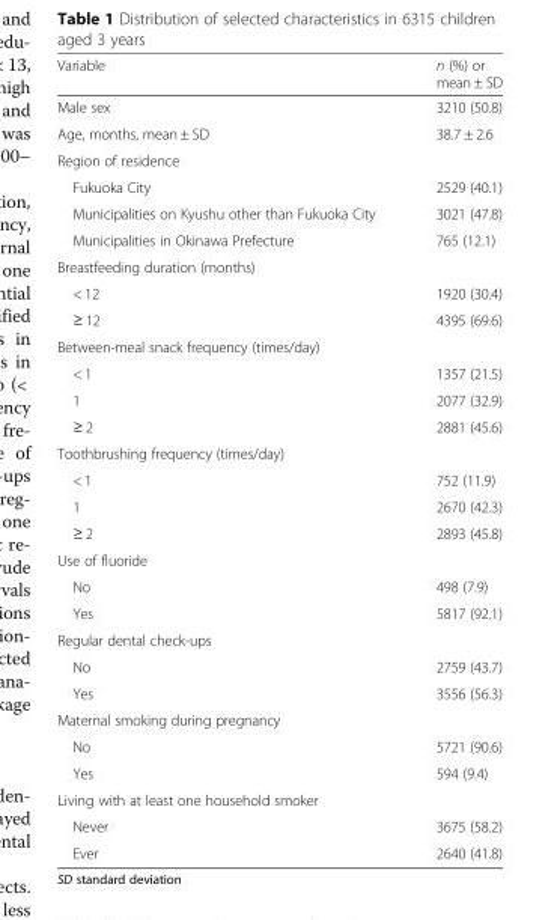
<table><thead><tr><td>Variable</td><td>n (%) or mean ± SD</td></tr></thead><tbody><tr><td>Male sex</td><td>3210 (50.8)</td></tr><tr><td>Age, months, mean ± SD</td><td>38.7 ± 2.6</td></tr><tr><td colspan="2">Region of residence</td></tr><tr><td>Fukuoka City</td><td>2529 (40.1)</td></tr><tr><td>Municipalities on Kyushu other than Fukuoka City</td><td>3021 (47.8)</td></tr><tr><td>Municipalities in Okinawa Prefecture</td><td>765 (12.1)</td></tr><tr><td colspan="2">Breastfeeding duration (months)</td></tr><tr><td>&lt; 12</td><td>1920 (30.4)</td></tr><tr><td>≥ 12</td><td>4395 (69.6)</td></tr><tr><td colspan="2">Between-meal snack frequency (times/day)</td></tr><tr><td>&lt; 1</td><td>1357 (21.5)</td></tr><tr><td>1</td><td>2077 (32.9)</td></tr><tr><td>≥ 2</td><td>2881 (45.6)</td></tr><tr><td colspan="2">Toothbrushing frequency (times/day)</td></tr><tr><td>&lt; 1</td><td>752 (11.9)</td></tr><tr><td>1</td><td>2670 (42.3)</td></tr><tr><td>≥ 2</td><td>2893 (45.8)</td></tr><tr><td colspan="2">Use of fluoride</td></tr><tr><td>No</td><td>498 (7.9)</td></tr><tr><td>Yes</td><td>5817 (92.1)</td></tr><tr><td colspan="2">Regular dental check-ups</td></tr><tr><td>No</td><td>2759 (43.7)</td></tr><tr><td>Yes</td><td>3556 (56.3)</td></tr><tr><td colspan="2">Maternal smoking during pregnancy</td></tr><tr><td>No</td><td>5721 (90.6)</td></tr><tr><td>Yes</td><td>594 (9.4)</td></tr><tr><td colspan="2">Living with at least one household smoker</td></tr><tr><td>Never</td><td>3675 (58.2)</td></tr><tr><td>Ever</td><td>2640 (41.8)</td></tr></tbody></table>